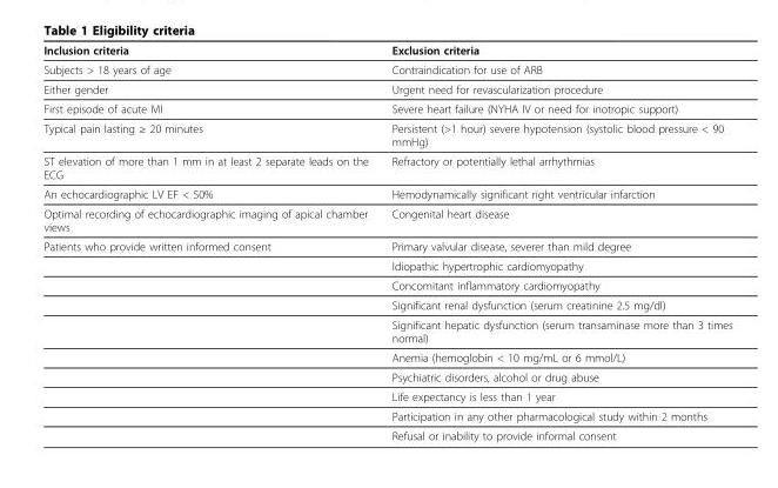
<table><thead><tr><td>Inclusion criteria</td><td>Exclusion criteria</td></tr></thead><tbody><tr><td>Subjects &gt; 18 years of age</td><td>Contraindication for use of ARB</td></tr><tr><td>Either gender</td><td>Urgent need for revascularization procedure</td></tr><tr><td>First episode of acute MI</td><td>Severe heart failure (NYHA IV or need for inotropic support)</td></tr><tr><td>Typical pain lasting ≥ 20 minutes</td><td>Persistent (&gt;1 hour) severe hypotension (systolic blood pressure &lt; 90 mmHg)</td></tr><tr><td>ST elevation of more than 1 mm in at least 2 separate leads on the ECG</td><td>Refractory or potentially lethal arrhythmias</td></tr><tr><td>An echocardiographic LV EF &lt; 50%</td><td>Hemodynamically significant right ventricular infarction</td></tr><tr><td>Optimal recording of echocardiographic imaging of apical chamber views</td><td>Congenital heart disease</td></tr><tr><td rowspan="10">Patients who provide written informed consent</td><td>Primary valvular disease, severer than mild degree</td></tr><tr><td>Idiopathic hypertrophic cardiomyopathy</td></tr><tr><td>Concomitant inflammatory cardiomyopathy</td></tr><tr><td>Significant renal dysfunction (serum creatinine 2.5 mg/dl)</td></tr><tr><td>Significant hepatic dysfunction (serum transaminase more than 3 times normal)</td></tr><tr><td>Anemia (hemoglobin &lt; 10 mg/mL or 6 mmol/L)</td></tr><tr><td>Psychiatric disorders, alcohol or drug abuse</td></tr><tr><td>Life expectancy is less than 1 year</td></tr><tr><td>Participation in any other pharmacological study within 2 months</td></tr><tr><td>Refusal or inability to provide informal consent</td></tr></tbody></table>